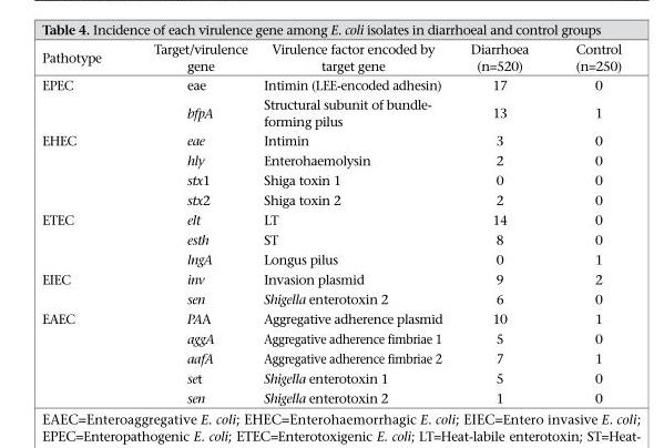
<table><thead><tr><td>Pathotype</td><td>Target/virulence gene</td><td>Virulence factor encoded by target gene</td><td>Diarrhoea (n=520)</td><td>Control (n=250)</td></tr></thead><tbody><tr><td rowspan="2">EPEC</td><td>eae</td><td>Intimin (LEE-encoded adhesin)</td><td>17</td><td>0</td></tr><tr><td>bfpA</td><td>Structural subunit of bundle- forming pilus</td><td>13</td><td>1</td></tr><tr><td rowspan="4">EHEC</td><td>eae</td><td>Intimin</td><td>3</td><td>0</td></tr><tr><td>hly</td><td>Enterohaemolysin</td><td>2</td><td>0</td></tr><tr><td>stx1</td><td>Shiga toxin 1</td><td>0</td><td>0</td></tr><tr><td>stx2</td><td>Shiga toxin 2</td><td>2</td><td>0</td></tr><tr><td rowspan="3">ETEC</td><td>elt</td><td>LT</td><td>14</td><td>0</td></tr><tr><td>esth</td><td>ST</td><td>8</td><td>0</td></tr><tr><td>lngA</td><td>Longus pilus</td><td>0</td><td>1</td></tr><tr><td rowspan="2">EIEC</td><td>inv</td><td>Invasion plasmid</td><td>9</td><td>2</td></tr><tr><td>sen</td><td>Shigella enterotoxin 2</td><td>6</td><td>0</td></tr><tr><td rowspan="5">EAEC</td><td>PAA</td><td>Aggregative adherence plasmid</td><td>10</td><td>1</td></tr><tr><td>aggA</td><td>Aggregative adherence fimbriae 1</td><td>5</td><td>0</td></tr><tr><td>aafA</td><td>Aggregative adherence fimbriae 2</td><td>7</td><td>1</td></tr><tr><td>set</td><td>Shigella enterotoxin 1</td><td>5</td><td>0</td></tr><tr><td>sen</td><td>Shigella enterotoxin 2</td><td>1</td><td>0</td></tr></tbody></table>